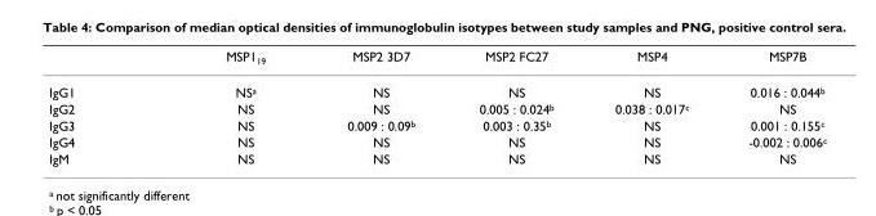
<table><thead><tr><td></td><td>MSP1<sub>19</sub></td><td>MSP2 3D7</td><td>MSP2 FC27</td><td>MSP4</td><td>MSP7B</td></tr></thead><tbody><tr><td>IgG1</td><td>NS<sup>a</sup></td><td>NS</td><td>NS</td><td>NS</td><td>0.016 : 0.044<sup>b</sup></td></tr><tr><td>IgG2</td><td>NS</td><td>NS</td><td>0.005 : 0.024<sup>b</sup></td><td>0.038 : 0.017<sup>c</sup></td><td>NS</td></tr><tr><td>IgG3</td><td>NS</td><td>0.009 : 0.09<sup>b</sup></td><td>0.003 : 0.35<sup>b</sup></td><td>NS</td><td>0.001 : 0.155<sup>c</sup></td></tr><tr><td>IgG4</td><td>NS</td><td>NS</td><td>NS</td><td>NS</td><td>-0.002 : 0.006<sup>c</sup></td></tr><tr><td>IgM</td><td>NS</td><td>NS</td><td>NS</td><td>NS</td><td>NS</td></tr></tbody></table>